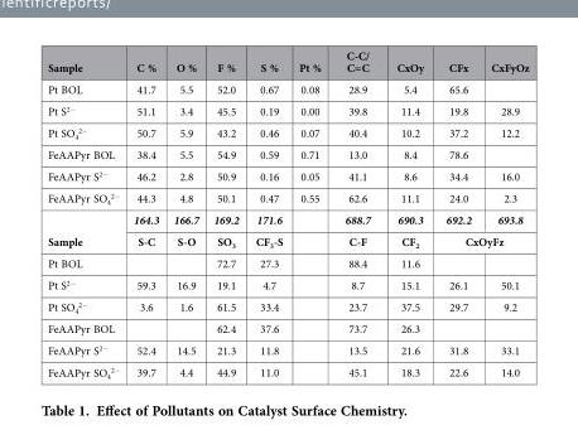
<table><thead><tr><td>Sample</td><td>C %</td><td>O %</td><td>F %</td><td>S %</td><td>Pt %</td><td>C-C/ C= C</td><td>CxOy</td><td>CFx</td><td>CxFyOz</td></tr></thead><tbody><tr><td>Pt BOL</td><td>41.7</td><td>5.5</td><td>52.0</td><td>0.67</td><td>0.08</td><td>28.9</td><td>5.4</td><td>65.6</td><td></td></tr><tr><td>Pt S<sup>2−</sup></td><td>51.1</td><td>3.4</td><td>45.5</td><td>0.19</td><td>0.00</td><td>39.8</td><td>11.4</td><td>19.8</td><td>28.9</td></tr><tr><td>Pt SO<sub>4</sub> <sup>2−</sup></td><td>50.7</td><td>5.9</td><td>43.2</td><td>0.46</td><td>0.07</td><td>40.4</td><td>10.2</td><td>37.2</td><td>12.2</td></tr><tr><td>FeAAPyr BOL</td><td>38.4</td><td>5.5</td><td>54.9</td><td>0.59</td><td>0.71</td><td>13.0</td><td>8.4</td><td>78.6</td><td></td></tr><tr><td>FeAAPyr S<sup>2−</sup></td><td>46.2</td><td>2.8</td><td>50.9</td><td>0.16</td><td>0.05</td><td>41.1</td><td>8.6</td><td>34.4</td><td>16.0</td></tr><tr><td>FeAAPyr SO<sub>4</sub> <sup>2−</sup></td><td>44.3</td><td>4.8</td><td>50.1</td><td>0.47</td><td>0.55</td><td>62.6</td><td>11.1</td><td>24.0</td><td>2.3</td></tr><tr><td rowspan="2">Sample</td><td>164.3</td><td>166.7</td><td>169.2</td><td>171.6</td><td></td><td>688.7</td><td>690.3</td><td>692.2</td><td>693.8</td></tr><tr><td>S-C</td><td>S-O</td><td>SO<sub>3</sub></td><td>CF<sub>3</sub>-S</td><td></td><td>C-F</td><td>CF<sub>2</sub></td><td colspan="2">CxOyFz</td></tr><tr><td>Pt BOL</td><td></td><td></td><td>72.7</td><td>27.3</td><td></td><td>88.4</td><td>11.6</td><td></td><td></td></tr><tr><td>Pt S<sup>2−</sup></td><td>59.3</td><td>16.9</td><td>19.1</td><td>4.7</td><td></td><td>8.7</td><td>15.1</td><td>26.1</td><td>50.1</td></tr><tr><td>Pt SO<sub>4</sub> <sup>2−</sup></td><td>3.6</td><td>1.6</td><td>61.5</td><td>33.4</td><td></td><td>23.7</td><td>37.5</td><td>29.7</td><td>9.2</td></tr><tr><td>FeAAPyr BOL</td><td></td><td></td><td>62.4</td><td>37.6</td><td></td><td>73.7</td><td>26.3</td><td></td><td></td></tr><tr><td>FeAAPyr S<sup>2−</sup></td><td>52.4</td><td>14.5</td><td>21.3</td><td>11.8</td><td></td><td>13.5</td><td>21.6</td><td>31.8</td><td>33.1</td></tr><tr><td>FeAAPyr SO<sub>4</sub> <sup>2−</sup></td><td>39.7</td><td>4.4</td><td>44.9</td><td>11.0</td><td></td><td>45.1</td><td>18.3</td><td>22.6</td><td>14.0</td></tr></tbody></table>